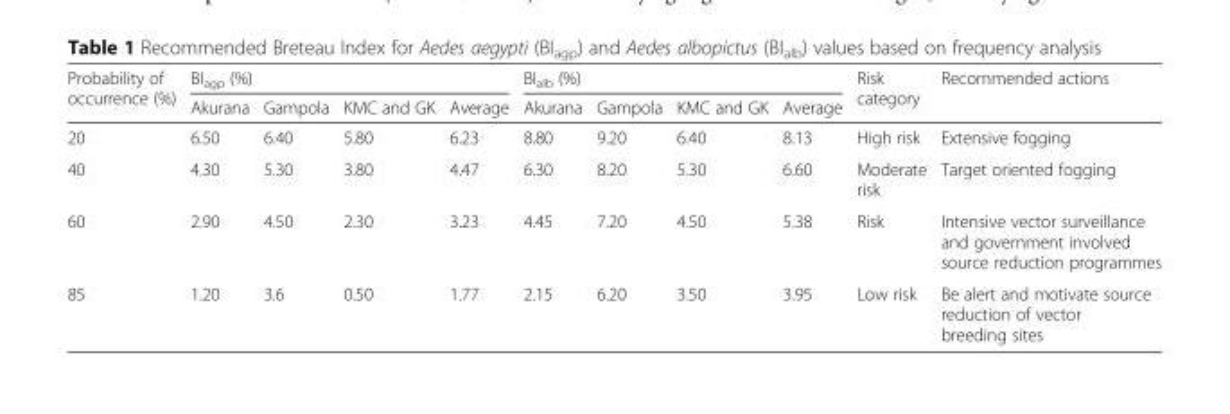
<table><thead><tr><td rowspan="2">Probability of occurrence (%)</td><td colspan="4">BI<sub>agp</sub> (%)</td><td colspan="4">BI<sub>alb</sub> (%)</td><td rowspan="2">Risk category</td><td rowspan="2">Recommended actions</td></tr><tr><td>Akurana</td><td>Gampola</td><td>KMC and GK</td><td>Average</td><td>Akurana</td><td>Gampola</td><td>KMC and GK</td><td>Average</td></tr></thead><tbody><tr><td>20</td><td>6.50</td><td>6.40</td><td>5.80</td><td>6.23</td><td>8.80</td><td>9.20</td><td>6.40</td><td>8.13</td><td>High risk</td><td>Extensive fogging</td></tr><tr><td>40</td><td>4.30</td><td>5.30</td><td>3.80</td><td>4.47</td><td>6.30</td><td>8.20</td><td>5.30</td><td>6.60</td><td>Moderate risk</td><td>Target oriented fogging</td></tr><tr><td>60</td><td>2.90</td><td>4.50</td><td>2.30</td><td>3.23</td><td>4.45</td><td>7.20</td><td>4.50</td><td>5.38</td><td>Risk</td><td>Intensive vector surveillance and government involved source reduction programmes</td></tr><tr><td>85</td><td>1.20</td><td>3.6</td><td>0.50</td><td>1.77</td><td>2.15</td><td>6.20</td><td>3.50</td><td>3.95</td><td>Low risk</td><td>Be alert and motivate source reduction of vector breeding sites</td></tr></tbody></table>